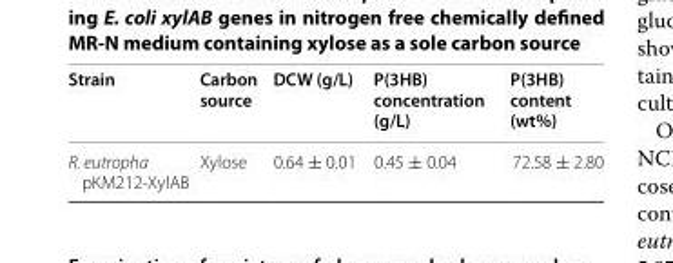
<table><thead><tr><td>Strain</td><td>Carbon source</td><td>DCW (g/L)</td><td>P(3HB) concentration (g/L)</td><td>P(3HB) content (wt%)</td></tr></thead><tbody><tr><td>R. eutropha pKM212‑XylAB</td><td>Xylose</td><td>0.64 ± 0.01</td><td>0.45 ± 0.04</td><td>72.58 ± 2.80</td></tr></tbody></table>